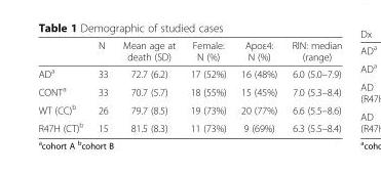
<table><thead><tr><td></td><td>N</td><td>Mean age at death (SD)</td><td>Female: N (%)</td><td>Apoε4: N (%)</td><td>RIN: median (range)</td></tr></thead><tbody><tr><td>AD<sup>a</sup></td><td>33</td><td>72.7 (6.2)</td><td>17 (52%)</td><td>16 (48%)</td><td>6.0 (5.0–7.9)</td></tr><tr><td>CONT<sup>a</sup></td><td>33</td><td>70.7 (5.7)</td><td>18 (55%)</td><td>15 (45%)</td><td>7.0 (5.3–8.4)</td></tr><tr><td>WT (CC)<sup>b</sup></td><td>26</td><td>79.7 (8.5)</td><td>19 (73%)</td><td>20 (77%)</td><td>6.6 (5.5–8.6)</td></tr><tr><td>R47H (CT)<sup>b</sup></td><td>15</td><td>81.5 (8.3)</td><td>11 (73%)</td><td>9 (69%)</td><td>6.3 (5.5–8.4)</td></tr></tbody></table>